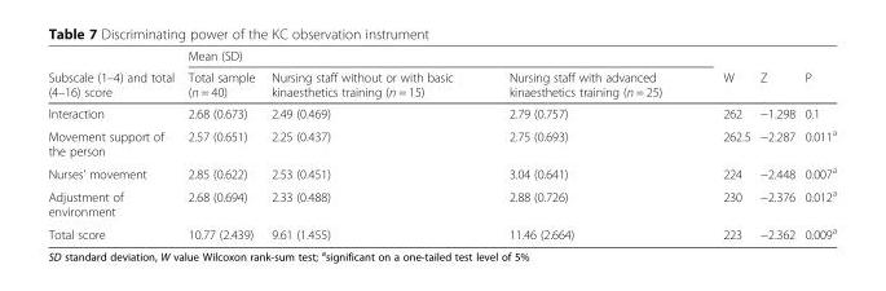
<table><thead><tr><td rowspan="2">Subscale (1–4) and total (4–16) score</td><td colspan="3">Mean (SD)</td><td rowspan="2">W</td><td rowspan="2">Z</td><td rowspan="2">P</td></tr><tr><td>Total sample (n = 40)</td><td>Nursing staff without or with basic kinaesthetics training (n = 15)</td><td>Nursing staff with advanced kinaesthetics training (n = 25)</td></tr></thead><tbody><tr><td>Interaction</td><td>2.68 (0.673)</td><td>2.49 (0.469)</td><td>2.79 (0.757)</td><td>262</td><td>−1.298</td><td>0.1</td></tr><tr><td>Movement support of the person</td><td>2.57 (0.651)</td><td>2.25 (0.437)</td><td>2.75 (0.693)</td><td>262.5</td><td>−2.287</td><td>0.011<sup>a</sup></td></tr><tr><td>Nurses’ movement</td><td>2.85 (0.622)</td><td>2.53 (0.451)</td><td>3.04 (0.641)</td><td>224</td><td>−2.448</td><td>0.007<sup>a</sup></td></tr><tr><td>Adjustment of environment</td><td>2.68 (0.694)</td><td>2.33 (0.488)</td><td>2.88 (0.726)</td><td>230</td><td>−2.376</td><td>0.012<sup>a</sup></td></tr><tr><td>Total score</td><td>10.77 (2.439)</td><td>9.61 (1.455)</td><td>11.46 (2.664)</td><td>223</td><td>−2.362</td><td>0.009<sup>a</sup></td></tr></tbody></table>